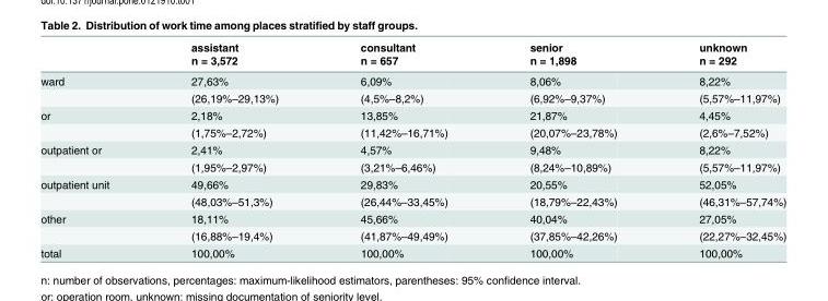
<table><thead><tr><td rowspan="2"></td><td rowspan="2">assistant n = 3,572</td><td rowspan="2">consultant n = 657</td><td rowspan="2">senior n = 1,898</td><td rowspan="2">unknown n = 292</td></tr><tr></tr></thead><tbody><tr><td rowspan="2">ward</td><td>27,63%</td><td>6,09%</td><td>8,06%</td><td>8,22%</td></tr><tr><td>(26,19%–29,13%)</td><td>(4,5%–8,2%)</td><td>(6,92%–9,37%)</td><td>(5,57%–11,97%)</td></tr><tr><td rowspan="2">or</td><td>2,18%</td><td>13,85%</td><td>21,87%</td><td>4,45%</td></tr><tr><td>(1,75%–2,72%)</td><td>(11,42%–16,71%)</td><td>(20,07%–23,78%)</td><td>(2,6%–7,52%)</td></tr><tr><td rowspan="2">outpatient or</td><td>2,41%</td><td>4,57%</td><td>9,48%</td><td>8,22%</td></tr><tr><td>(1,95%–2,97%)</td><td>(3,21%–6,46%)</td><td>(8,24%–10,89%)</td><td>(5,57%–11,97%)</td></tr><tr><td rowspan="2">outpatient unit</td><td>49,66%</td><td>29,83%</td><td>20,55%</td><td>52,05%</td></tr><tr><td>(48,03%–51,3%)</td><td>(26,44%–33,45%)</td><td>(18,79%–22,43%)</td><td>(46,31%–57,74%)</td></tr><tr><td rowspan="2">other</td><td>18,11%</td><td>45,66%</td><td>40,04%</td><td>27,05%</td></tr><tr><td>(16,88%–19,4%)</td><td>(41,87%–49,49%)</td><td>(37,85%–42,26%)</td><td>(22,27%–32,45%)</td></tr><tr><td>total</td><td>100,00%</td><td>100,00%</td><td>100,00%</td><td>100,00%</td></tr></tbody></table>